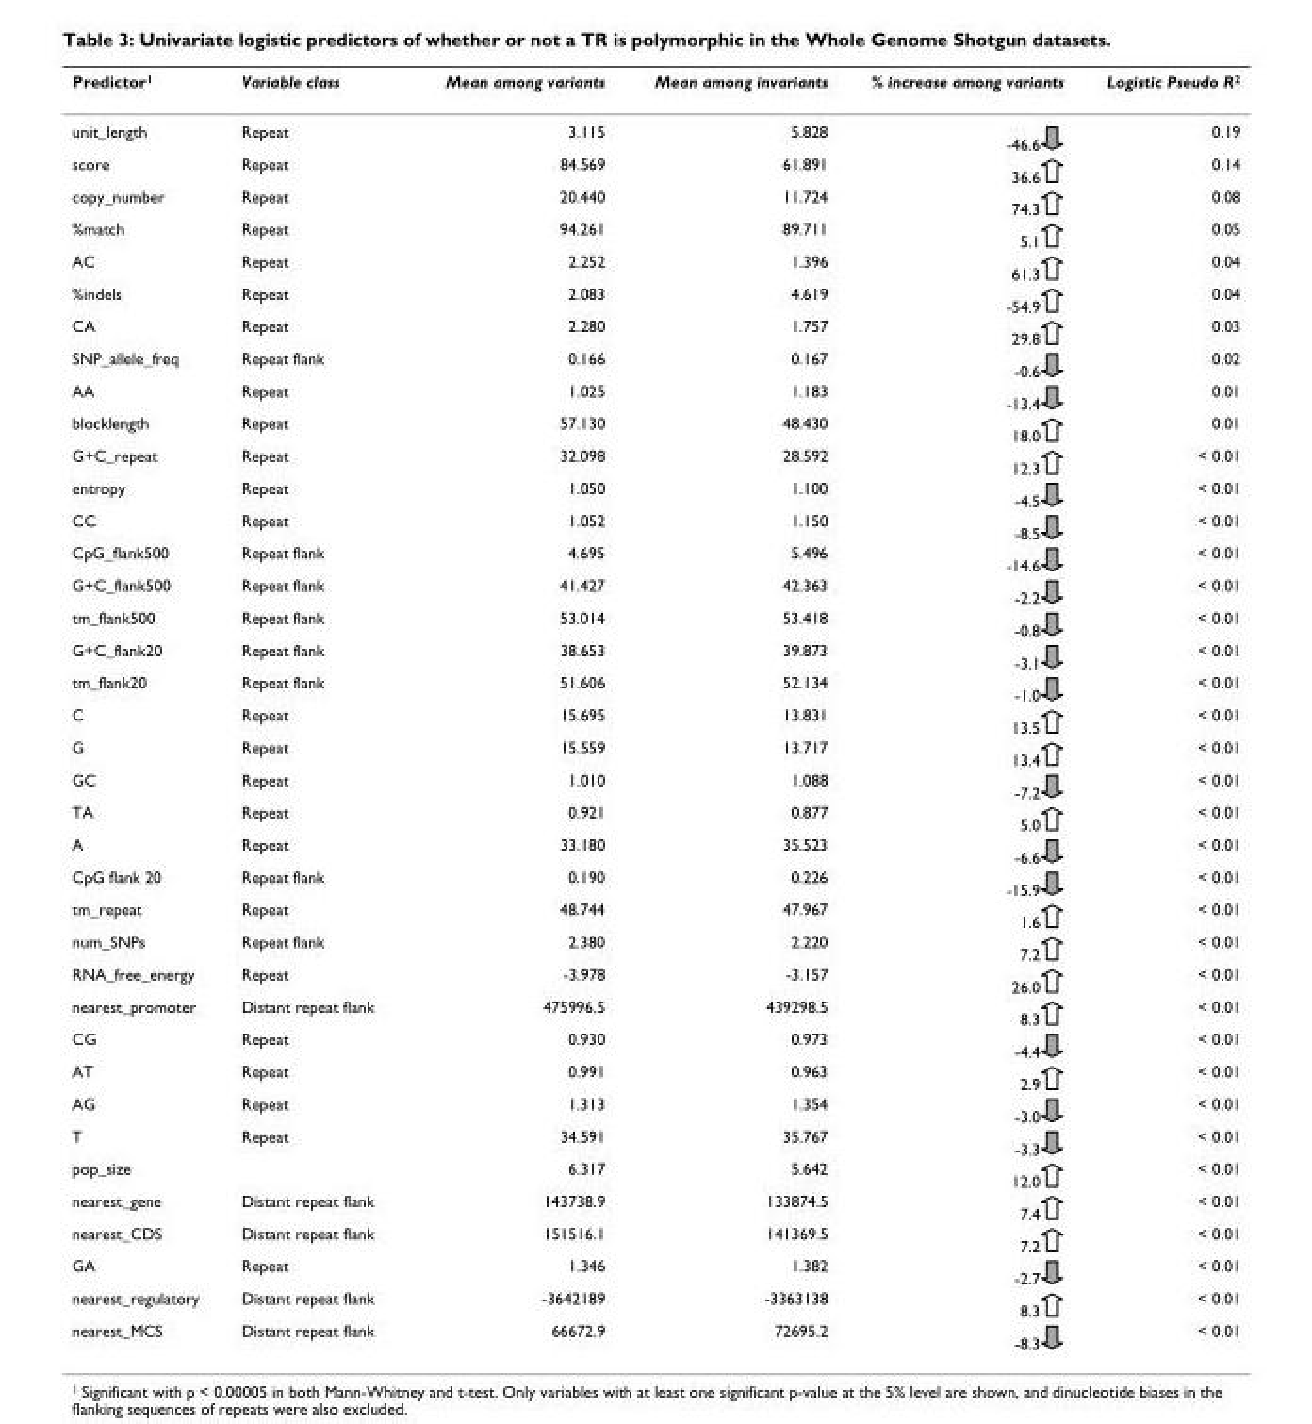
<table><thead><tr><td>Predictor<sup>1</sup></td><td>Variable class</td><td>Mean among variants</td><td>Mean among invariants</td><td>% increase among variants</td><td>Logistic Pseudo R<sup>2</sup></td></tr></thead><tbody><tr><td>unit_length</td><td>Repeat</td><td>3.115</td><td>5.828</td><td>-46.6</td><td>0.19</td></tr><tr><td>score</td><td>Repeat</td><td>84.569</td><td>61.891</td><td>36.6</td><td>0.14</td></tr><tr><td>copy_number</td><td>Repeat</td><td>20.440</td><td>11.724</td><td>74.3</td><td>0.08</td></tr><tr><td>%match</td><td>Repeat</td><td>94.261</td><td>89.711</td><td>5.1</td><td>0.05</td></tr><tr><td>AC</td><td>Repeat</td><td>2.252</td><td>1.396</td><td>61.3</td><td>0.04</td></tr><tr><td>%indels</td><td>Repeat</td><td>2.083</td><td>4.619</td><td>-54.9</td><td>0.04</td></tr><tr><td>CA</td><td>Repeat</td><td>2.280</td><td>1.757</td><td>29.8</td><td>0.03</td></tr><tr><td>SNP_allele_freq</td><td>Repeat flank</td><td>0.166</td><td>0.167</td><td>-0.6</td><td>0.02</td></tr><tr><td>AA</td><td>Repeat</td><td>1.025</td><td>1.183</td><td>-13.4</td><td>0.01</td></tr><tr><td>blocklength</td><td>Repeat</td><td>57.130</td><td>48.430</td><td>18.0</td><td>0.01</td></tr><tr><td>G+C_repeat</td><td>Repeat</td><td>32.098</td><td>28.592</td><td>12.3</td><td>&lt; 0.01</td></tr><tr><td>entropy</td><td>Repeat</td><td>1.050</td><td>1.100</td><td>-4.5</td><td>&lt; 0.01</td></tr><tr><td>CC</td><td>Repeat</td><td>1.052</td><td>1.150</td><td>-8.5</td><td>&lt; 0.01</td></tr><tr><td>CpG_flank500</td><td>Repeat flank</td><td>4.695</td><td>5.496</td><td>-14.6</td><td>&lt; 0.01</td></tr><tr><td>G+C_flank500</td><td>Repeat flank</td><td>41.427</td><td>42.363</td><td>-2.2</td><td>&lt; 0.01</td></tr><tr><td>tm_flank500</td><td>Repeat flank</td><td>53.014</td><td>53.418</td><td>-0.8</td><td>&lt; 0.01</td></tr><tr><td>G+C_flank20</td><td>Repeat flank</td><td>38.653</td><td>39.873</td><td>-3.1</td><td>&lt; 0.01</td></tr><tr><td>tm_flank20</td><td>Repeat flank</td><td>51.606</td><td>52.134</td><td>-1.0</td><td>&lt; 0.01</td></tr><tr><td>C</td><td>Repeat</td><td>15.695</td><td>13.831</td><td>13.5</td><td>&lt; 0.01</td></tr><tr><td>G</td><td>Repeat</td><td>15.559</td><td>13.717</td><td>13.4</td><td>&lt; 0.01</td></tr><tr><td>GC</td><td>Repeat</td><td>1.010</td><td>1.088</td><td>-7.2</td><td>&lt; 0.01</td></tr><tr><td>TA</td><td>Repeat</td><td>0.921</td><td>0.877</td><td>5.0</td><td>&lt; 0.01</td></tr><tr><td>A</td><td>Repeat</td><td>33.180</td><td>35.523</td><td>-6.6</td><td>&lt; 0.01</td></tr><tr><td>CpG flank 20</td><td>Repeat flank</td><td>0.190</td><td>0.226</td><td>-15.9</td><td>&lt; 0.01</td></tr><tr><td>tm_repeat</td><td>Repeat</td><td>48.744</td><td>47.967</td><td>1.6</td><td>&lt; 0.01</td></tr><tr><td>num_SNPs</td><td>Repeat flank</td><td>2.380</td><td>2.220</td><td>7.2</td><td>&lt; 0.01</td></tr><tr><td>RNA_free_energy</td><td>Repeat</td><td>-3.978</td><td>-3.157</td><td>26.0</td><td>&lt; 0.01</td></tr><tr><td>nearest_promoter</td><td>Distant repeat flank</td><td>475996.5</td><td>439298.5</td><td>8.3</td><td>&lt; 0.01</td></tr><tr><td>CG</td><td>Repeat</td><td>0.930</td><td>0.973</td><td>-4.4</td><td>&lt; 0.01</td></tr><tr><td>AT</td><td>Repeat</td><td>0.991</td><td>0.963</td><td>2.9</td><td>&lt; 0.01</td></tr><tr><td>AG</td><td>Repeat</td><td>1.313</td><td>1.354</td><td>-3.0</td><td>&lt; 0.01</td></tr><tr><td>T</td><td>Repeat</td><td>34.591</td><td>35.767</td><td>-3.3</td><td>&lt; 0.01</td></tr><tr><td>pop_size</td><td></td><td>6.317</td><td>5.642</td><td>12.0</td><td>&lt; 0.01</td></tr><tr><td>nearest_gene</td><td>Distant repeat flank</td><td>143738.9</td><td>133874.5</td><td>7.4</td><td>&lt; 0.01</td></tr><tr><td>nearest_CDS</td><td>Distant repeat flank</td><td>151516.1</td><td>141369.5</td><td>7.2</td><td>&lt; 0.01</td></tr><tr><td>GA</td><td>Repeat</td><td>1.346</td><td>1.382</td><td>-2.7</td><td>&lt; 0.01</td></tr><tr><td>nearest_regulatory</td><td>Distant repeat flank</td><td>-3642189</td><td>-3363138</td><td>8.3</td><td>&lt; 0.01</td></tr><tr><td>nearest_MCS</td><td>Distant repeat flank</td><td>66672.9</td><td>72695.2</td><td>-8.3</td><td>&lt; 0.01</td></tr></tbody></table>